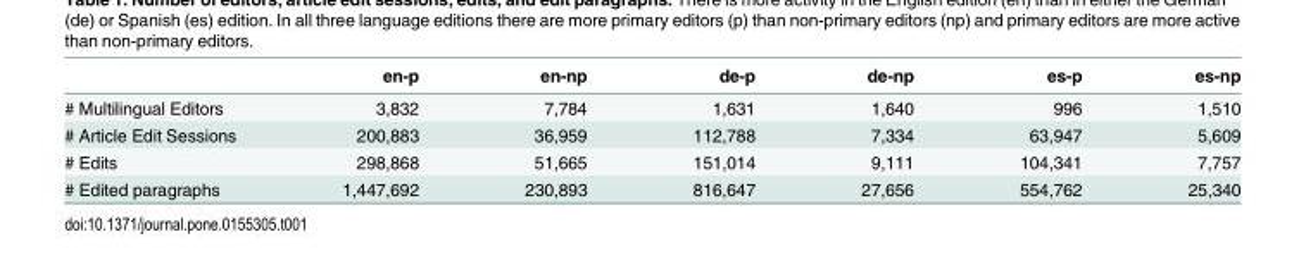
<table><thead><tr><td></td><td>en-p</td><td>en-np</td><td>de-p</td><td>de-np</td><td>es-p</td><td>es-np</td></tr></thead><tbody><tr><td># Multilingual Editors</td><td>3,832</td><td>7,784</td><td>1,631</td><td>1,640</td><td>996</td><td>1,510</td></tr><tr><td># Article Edit Sessions</td><td>200,883</td><td>36,959</td><td>112,788</td><td>7,334</td><td>63,947</td><td>5,609</td></tr><tr><td># Edits</td><td>298,868</td><td>51,665</td><td>151,014</td><td>9,111</td><td>104,341</td><td>7,757</td></tr><tr><td># Edited paragraphs</td><td>1,447,692</td><td>230,893</td><td>816,647</td><td>27,656</td><td>554,762</td><td>25,340</td></tr></tbody></table>